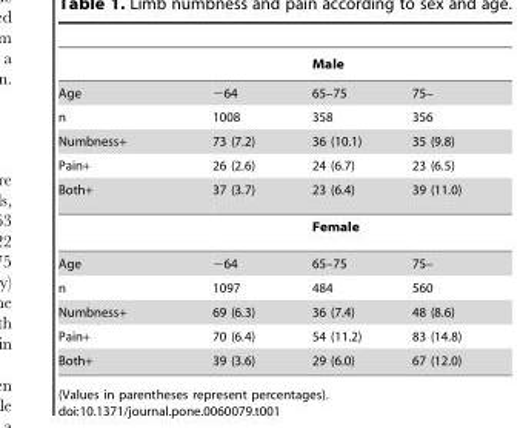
<table><thead><tr><td></td><td></td><td>Male</td><td></td></tr></thead><tbody><tr><td>Age</td><td>−64</td><td>65–75</td><td>75–</td></tr><tr><td>n</td><td>1008</td><td>358</td><td>356</td></tr><tr><td>Numbness+</td><td>73 (7.2)</td><td>36 (10.1)</td><td>35 (9.8)</td></tr><tr><td>Pain+</td><td>26 (2.6)</td><td>24 (6.7)</td><td>23 (6.5)</td></tr><tr><td rowspan="2">Both+</td><td>37 (3.7)</td><td>23 (6.4)</td><td>39 (11.0)</td></tr><tr><td></td><td>Female</td><td></td></tr><tr><td>Age</td><td>−64</td><td>65–75</td><td>75–</td></tr><tr><td>n</td><td>1097</td><td>484</td><td>560</td></tr><tr><td>Numbness+</td><td>69 (6.3)</td><td>36 (7.4)</td><td>48 (8.6)</td></tr><tr><td>Pain+</td><td>70 (6.4)</td><td>54 (11.2)</td><td>83 (14.8)</td></tr><tr><td>Both+</td><td>39 (3.6)</td><td>29 (6.0)</td><td>67 (12.0)</td></tr></tbody></table>